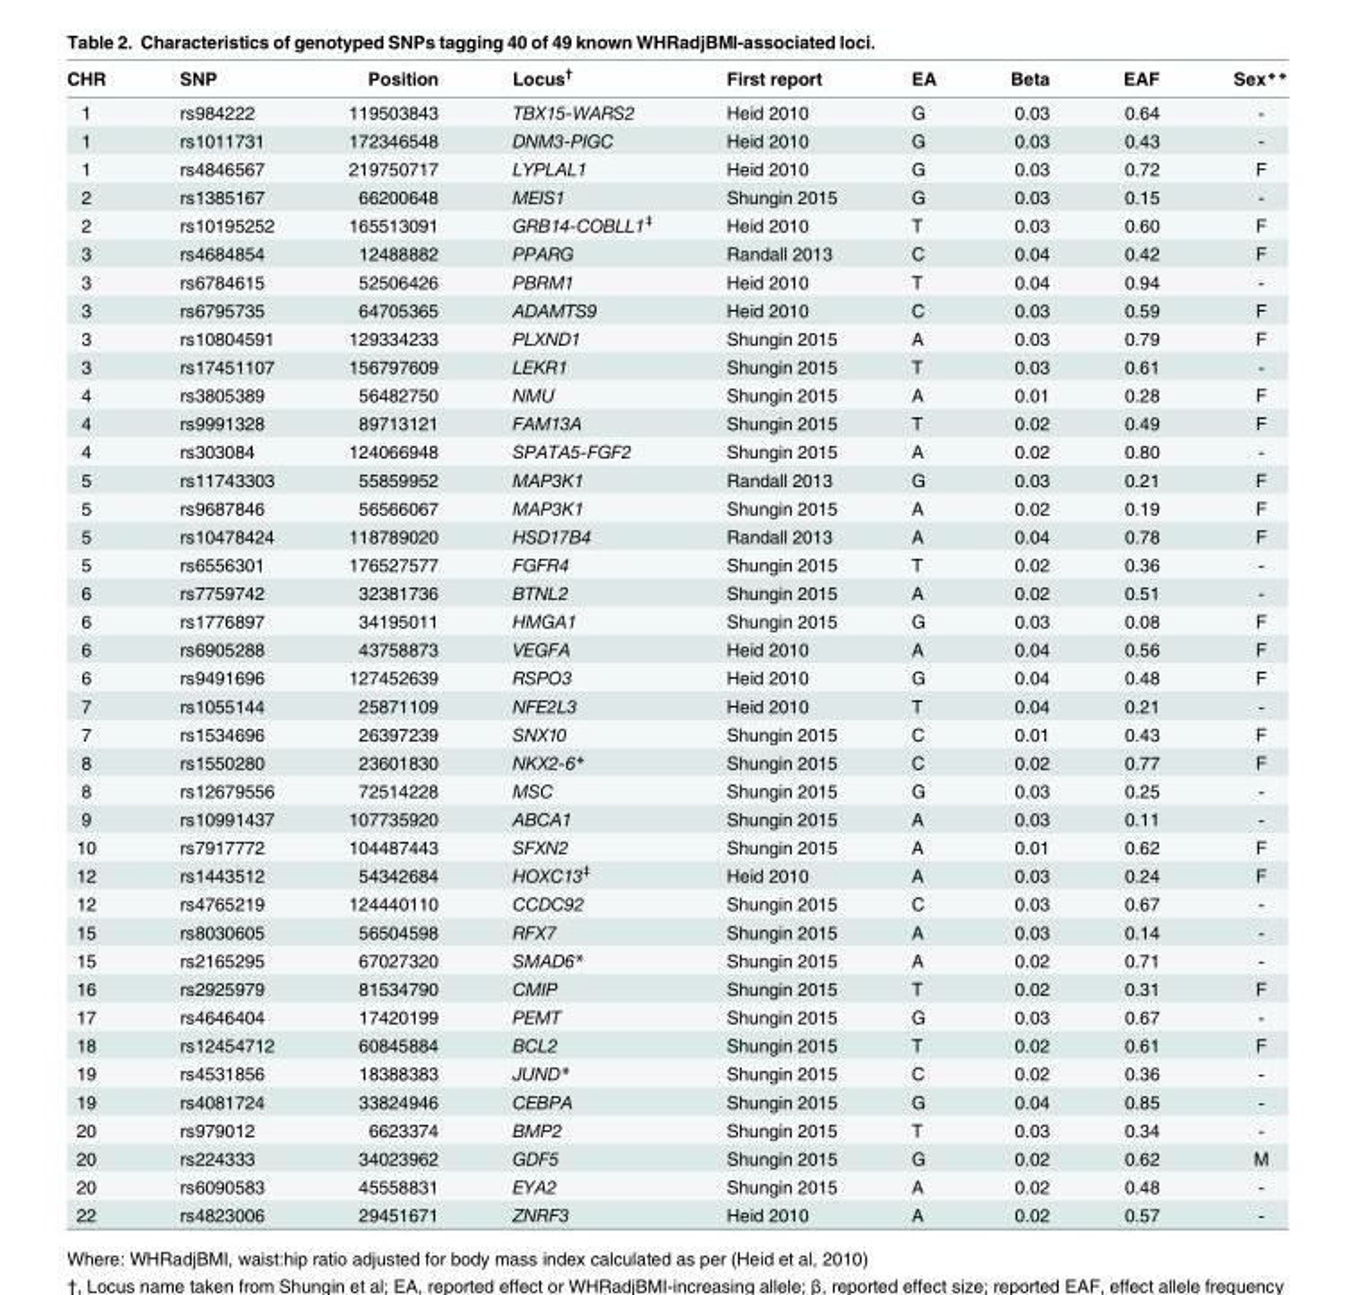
<table><thead><tr><td>CHR</td><td>SNP</td><td>Position</td><td>Locus<sup>†</sup></td><td>First report</td><td>EA</td><td>Beta</td><td>EAF</td><td>Sex**</td></tr></thead><tbody><tr><td>1</td><td>rs984222</td><td>119503843</td><td>TBX15-WARS2</td><td>Heid 2010</td><td>G</td><td>0.03</td><td>0.64</td><td>-</td></tr><tr><td>1</td><td>rs1011731</td><td>172346548</td><td>DNM3-PIGC</td><td>Heid 2010</td><td>G</td><td>0.03</td><td>0.43</td><td>-</td></tr><tr><td>1</td><td>rs4846567</td><td>219750717</td><td>LYPLAL1</td><td>Heid 2010</td><td>G</td><td>0.03</td><td>0.72</td><td>F</td></tr><tr><td>2</td><td>rs1385167</td><td>66200648</td><td>MEIS1</td><td>Shungin 2015</td><td>G</td><td>0.03</td><td>0.15</td><td>-</td></tr><tr><td>2</td><td>rs10195252</td><td>165513091</td><td>GRB14-COBLL1<sup>‡</sup></td><td>Heid 2010</td><td>T</td><td>0.03</td><td>0.60</td><td>F</td></tr><tr><td>3</td><td>rs4684854</td><td>12488882</td><td>PPARG</td><td>Randall 2013</td><td>C</td><td>0.04</td><td>0.42</td><td>F</td></tr><tr><td>3</td><td>rs6784615</td><td>52506426</td><td>PBRM1</td><td>Heid 2010</td><td>T</td><td>0.04</td><td>0.94</td><td>-</td></tr><tr><td>3</td><td>rs6795735</td><td>64705365</td><td>ADAMTS9</td><td>Heid 2010</td><td>C</td><td>0.03</td><td>0.59</td><td>F</td></tr><tr><td>3</td><td>rs10804591</td><td>129334233</td><td>PLXND1</td><td>Shungin 2015</td><td>A</td><td>0.03</td><td>0.79</td><td>F</td></tr><tr><td>3</td><td>rs17451107</td><td>156797609</td><td>LEKR1</td><td>Shungin 2015</td><td>T</td><td>0.03</td><td>0.61</td><td>-</td></tr><tr><td>4</td><td>rs3805389</td><td>56482750</td><td>NMU</td><td>Shungin 2015</td><td>A</td><td>0.01</td><td>0.28</td><td>F</td></tr><tr><td>4</td><td>rs9991328</td><td>89713121</td><td>FAM13A</td><td>Shungin 2015</td><td>T</td><td>0.02</td><td>0.49</td><td>F</td></tr><tr><td>4</td><td>rs303084</td><td>124066948</td><td>SPATA5-FGF2</td><td>Shungin 2015</td><td>A</td><td>0.02</td><td>0.80</td><td>-</td></tr><tr><td>5</td><td>rs11743303</td><td>55859952</td><td>MAP3K1</td><td>Randall 2013</td><td>G</td><td>0.03</td><td>0.21</td><td>F</td></tr><tr><td>5</td><td>rs9687846</td><td>56566067</td><td>MAP3K1</td><td>Shungin 2015</td><td>A</td><td>0.02</td><td>0.19</td><td>F</td></tr><tr><td>5</td><td>rs10478424</td><td>118789020</td><td>HSD17B4</td><td>Randall 2013</td><td>A</td><td>0.04</td><td>0.78</td><td>F</td></tr><tr><td>5</td><td>rs6556301</td><td>176527577</td><td>FGFR4</td><td>Shungin 2015</td><td>T</td><td>0.02</td><td>0.36</td><td>-</td></tr><tr><td>6</td><td>rs7759742</td><td>32381736</td><td>BTNL2</td><td>Shungin 2015</td><td>A</td><td>0.02</td><td>0.51</td><td>-</td></tr><tr><td>6</td><td>rs1776897</td><td>34195011</td><td>HMGA1</td><td>Shungin 2015</td><td>G</td><td>0.03</td><td>0.08</td><td>F</td></tr><tr><td>6</td><td>rs6905288</td><td>43758873</td><td>VEGFA</td><td>Heid 2010</td><td>A</td><td>0.04</td><td>0.56</td><td>F</td></tr><tr><td>6</td><td>rs9491696</td><td>127452639</td><td>RSPO3</td><td>Heid 2010</td><td>G</td><td>0.04</td><td>0.48</td><td>F</td></tr><tr><td>7</td><td>rs1055144</td><td>25871109</td><td>NFE2L3</td><td>Heid 2010</td><td>T</td><td>0.04</td><td>0.21</td><td>-</td></tr><tr><td>7</td><td>rs1534696</td><td>26397239</td><td>SNX10</td><td>Shungin 2015</td><td>C</td><td>0.01</td><td>0.43</td><td>F</td></tr><tr><td>8</td><td>rs1550280</td><td>23601830</td><td>NKX2-6*</td><td>Shungin 2015</td><td>C</td><td>0.02</td><td>0.77</td><td>F</td></tr><tr><td>8</td><td>rs12679556</td><td>72514228</td><td>MSC</td><td>Shungin 2015</td><td>G</td><td>0.03</td><td>0.25</td><td>-</td></tr><tr><td>9</td><td>rs10991437</td><td>107735920</td><td>ABCA1</td><td>Shungin 2015</td><td>A</td><td>0.03</td><td>0.11</td><td>-</td></tr><tr><td>10</td><td>rs7917772</td><td>104487443</td><td>SFXN2</td><td>Shungin 2015</td><td>A</td><td>0.01</td><td>0.62</td><td>F</td></tr><tr><td>12</td><td>rs1443512</td><td>54342684</td><td>HOXC13<sup>‡</sup></td><td>Heid 2010</td><td>A</td><td>0.03</td><td>0.24</td><td>F</td></tr><tr><td>12</td><td>rs4765219</td><td>124440110</td><td>CCDC92</td><td>Shungin 2015</td><td>C</td><td>0.03</td><td>0.67</td><td>-</td></tr><tr><td>15</td><td>rs8030605</td><td>56504598</td><td>RFX7</td><td>Shungin 2015</td><td>A</td><td>0.03</td><td>0.14</td><td>-</td></tr><tr><td>15</td><td>rs2165295</td><td>67027320</td><td>SMAD6*</td><td>Shungin 2015</td><td>A</td><td>0.02</td><td>0.71</td><td>-</td></tr><tr><td>16</td><td>rs2925979</td><td>81534790</td><td>CMIP</td><td>Shungin 2015</td><td>T</td><td>0.02</td><td>0.31</td><td>F</td></tr><tr><td>17</td><td>rs4646404</td><td>17420199</td><td>PEMT</td><td>Shungin 2015</td><td>G</td><td>0.03</td><td>0.67</td><td>-</td></tr><tr><td>18</td><td>rs12454712</td><td>60845884</td><td>BCL2</td><td>Shungin 2015</td><td>T</td><td>0.02</td><td>0.61</td><td>F</td></tr><tr><td>19</td><td>rs4531856</td><td>18388383</td><td>JUND*</td><td>Shungin 2015</td><td>C</td><td>0.02</td><td>0.36</td><td>-</td></tr><tr><td>19</td><td>rs4081724</td><td>33824946</td><td>CEBPA</td><td>Shungin 2015</td><td>G</td><td>0.04</td><td>0.85</td><td>-</td></tr><tr><td>20</td><td>rs979012</td><td>6623374</td><td>BMP2</td><td>Shungin 2015</td><td>T</td><td>0.03</td><td>0.34</td><td>-</td></tr><tr><td>20</td><td>rs224333</td><td>34023962</td><td>GDF5</td><td>Shungin 2015</td><td>G</td><td>0.02</td><td>0.62</td><td>M</td></tr><tr><td>20</td><td>rs6090583</td><td>45558831</td><td>EYA2</td><td>Shungin 2015</td><td>A</td><td>0.02</td><td>0.48</td><td>-</td></tr><tr><td>22</td><td>rs4823006</td><td>29451671</td><td>ZNRF3</td><td>Heid 2010</td><td>A</td><td>0.02</td><td>0.57</td><td>-</td></tr></tbody></table>